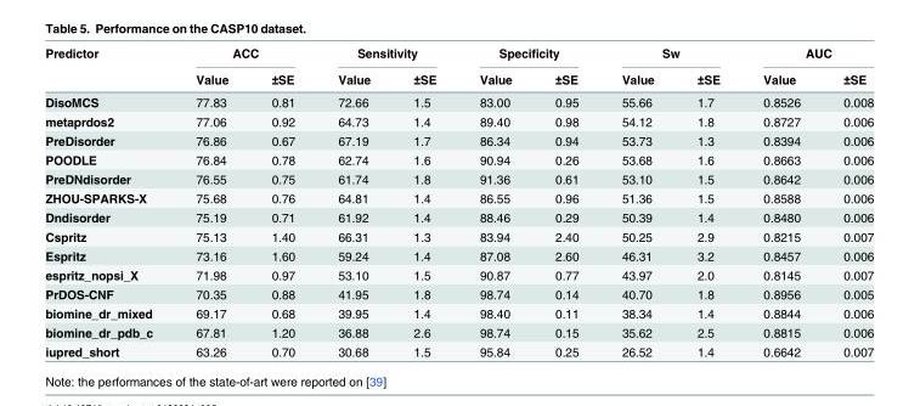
<table><thead><tr><td rowspan="2">Predictor</td><td colspan="2">ACC</td><td colspan="2">Sensitivity</td><td colspan="2">Specificity</td><td colspan="2">Sw</td><td colspan="2">AUC</td></tr><tr><td>Value</td><td>±SE</td><td>Value</td><td>±SE</td><td>Value</td><td>±SE</td><td>Value</td><td>±SE</td><td>Value</td><td>±SE</td></tr></thead><tbody><tr><td>DisoMCS</td><td>77.83</td><td>0.81</td><td>72.66</td><td>1.5</td><td>83.00</td><td>0.95</td><td>55.66</td><td>1.7</td><td>0.8526</td><td>0.008</td></tr><tr><td>metaprdos2</td><td>77.06</td><td>0.92</td><td>64.73</td><td>1.4</td><td>89.40</td><td>0.98</td><td>54.12</td><td>1.8</td><td>0.8727</td><td>0.006</td></tr><tr><td>PreDisorder</td><td>76.86</td><td>0.67</td><td>67.19</td><td>1.7</td><td>86.34</td><td>0.94</td><td>53.73</td><td>1.3</td><td>0.8394</td><td>0.006</td></tr><tr><td>POODLE</td><td>76.84</td><td>0.78</td><td>62.74</td><td>1.6</td><td>90.94</td><td>0.26</td><td>53.68</td><td>1.6</td><td>0.8663</td><td>0.006</td></tr><tr><td>PreDNdisorder</td><td>76.55</td><td>0.75</td><td>61.74</td><td>1.8</td><td>91.36</td><td>0.61</td><td>53.10</td><td>1.5</td><td>0.8642</td><td>0.006</td></tr><tr><td>ZHOU-SPARKS-X</td><td>75.68</td><td>0.76</td><td>64.81</td><td>1.4</td><td>86.55</td><td>0.96</td><td>51.36</td><td>1.5</td><td>0.8588</td><td>0.006</td></tr><tr><td>Dndisorder</td><td>75.19</td><td>0.71</td><td>61.92</td><td>1.4</td><td>88.46</td><td>0.29</td><td>50.39</td><td>1.4</td><td>0.8480</td><td>0.006</td></tr><tr><td>Cspritz</td><td>75.13</td><td>1.40</td><td>66.31</td><td>1.3</td><td>83.94</td><td>2.40</td><td>50.25</td><td>2.9</td><td>0.8215</td><td>0.007</td></tr><tr><td>Espritz</td><td>73.16</td><td>1.60</td><td>59.24</td><td>1.4</td><td>87.08</td><td>2.60</td><td>46.31</td><td>3.2</td><td>0.8457</td><td>0.006</td></tr><tr><td>espritz_nopsi_X</td><td>71.98</td><td>0.97</td><td>53.10</td><td>1.5</td><td>90.87</td><td>0.77</td><td>43.97</td><td>2.0</td><td>0.8145</td><td>0.007</td></tr><tr><td>PrDOS-CNF</td><td>70.35</td><td>0.88</td><td>41.95</td><td>1.8</td><td>98.74</td><td>0.14</td><td>40.70</td><td>1.8</td><td>0.8956</td><td>0.005</td></tr><tr><td>biomine_dr_mixed</td><td>69.17</td><td>0.68</td><td>39.95</td><td>1.4</td><td>98.40</td><td>0.11</td><td>38.34</td><td>1.4</td><td>0.8844</td><td>0.006</td></tr><tr><td>biomine_dr_pdb_c</td><td>67.81</td><td>1.20</td><td>36.88</td><td>2.6</td><td>98.74</td><td>0.15</td><td>35.62</td><td>2.5</td><td>0.8815</td><td>0.006</td></tr><tr><td>iupred_short</td><td>63.26</td><td>0.70</td><td>30.68</td><td>1.5</td><td>95.84</td><td>0.25</td><td>26.52</td><td>1.4</td><td>0.6642</td><td>0.007</td></tr></tbody></table>